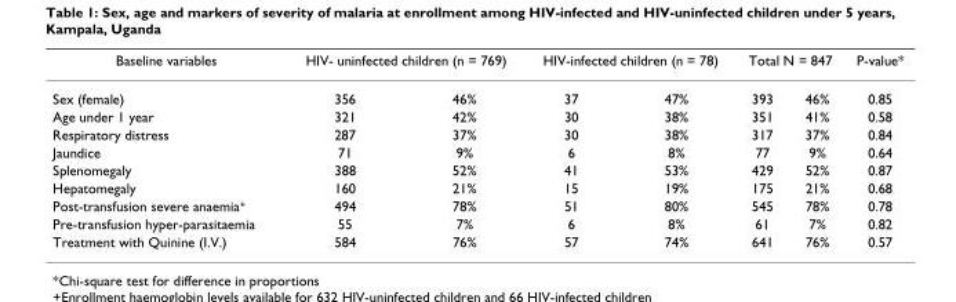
<table><thead><tr><td rowspan="2">Baseline variables Sex (female)</td><td colspan="2">HIV- uninfected children (n = 769)</td><td colspan="2">HIV-infected children (n = 78)</td><td colspan="2">Total N = 847</td><td rowspan="2">P-value* 0.85</td></tr><tr><td>356</td><td>46%</td><td>37</td><td>47%</td><td>393</td><td>46%</td></tr></thead><tbody><tr><td>Age under 1 year</td><td>321</td><td>42%</td><td>30</td><td>38%</td><td>351</td><td>41%</td><td>0.58</td></tr><tr><td>Respiratory distress</td><td>287</td><td>37%</td><td>30</td><td>38%</td><td>317</td><td>37%</td><td>0.84</td></tr><tr><td>Jaundice</td><td>71</td><td>9%</td><td>6</td><td>8%</td><td>77</td><td>9%</td><td>0.64</td></tr><tr><td>Splenomegaly</td><td>388</td><td>52%</td><td>41</td><td>53%</td><td>429</td><td>52%</td><td>0.87</td></tr><tr><td>Hepatomegaly</td><td>160</td><td>21%</td><td>15</td><td>19%</td><td>175</td><td>21%</td><td>0.68</td></tr><tr><td>Post-transfusion severe anaemia<sup>+</sup></td><td>494</td><td>78%</td><td>51</td><td>80%</td><td>545</td><td>78%</td><td>0.78</td></tr><tr><td>Pre-transfusion hyper-parasitaemia</td><td>55</td><td>7%</td><td>6</td><td>8%</td><td>61</td><td>7%</td><td>0.82</td></tr><tr><td>Treatment with Quinine (I.V.)</td><td>584</td><td>76%</td><td>57</td><td>74%</td><td>641</td><td>76%</td><td>0.57</td></tr></tbody></table>